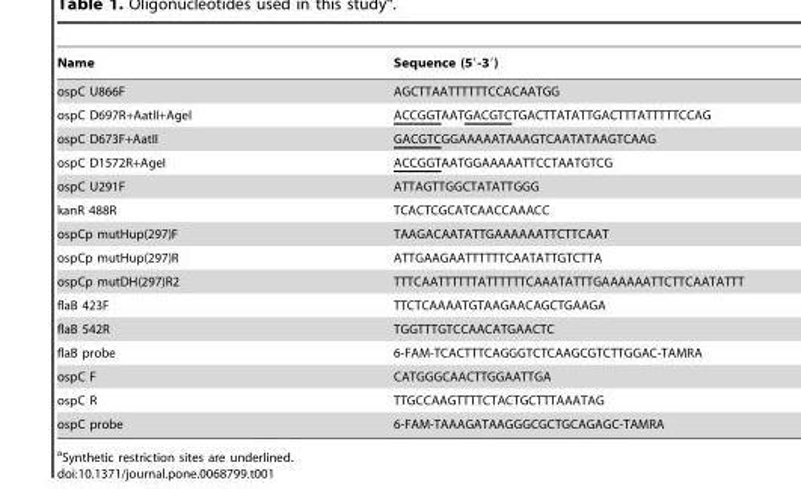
<table><thead><tr><td>Name</td><td>Sequence (5′-3′)</td></tr></thead><tbody><tr><td>ospC U866F</td><td>AGCTTAATTTTTTCCACAATGG</td></tr><tr><td>ospC D697R+AatII+AgeI</td><td>ACCGGTAATGACGTCTGACTTATATTGACTTTATTTTTCCAG</td></tr><tr><td>ospC D673F+AatII</td><td>GACGTCGGAAAAATAAAGTCAATATAAGTCAAG</td></tr><tr><td>ospC D1572R+AgeI</td><td>ACCGGTAATGGAAAAATTCCTAATGTCG</td></tr><tr><td>ospC U291F</td><td>ATTAGTTGGCTATATTGGG</td></tr><tr><td>kanR 488R</td><td>TCACTCGCATCAACCAAACC</td></tr><tr><td>ospCp mutHup(297)F</td><td>TAAGACAATATTGAAAAAATTCTTCAAT</td></tr><tr><td>ospCp mutHup(297)R</td><td>ATTGAAGAATTTTTTCAATATTGTCTTA</td></tr><tr><td>ospCp mutDH(297)R2</td><td>TTTCAATTTTTTATTTTTTCAAATATTTGAAAAAATTCTTCAATATTT</td></tr><tr><td>flaB 423F</td><td>TTCTCAAAATGTAAGAACAGCTGAAGA</td></tr><tr><td>flaB 542R</td><td>TGGTTTGTCCAACATGAACTC</td></tr><tr><td>flaB probe</td><td>6-FAM-TCACTTTCAGGGTCTCAAGCGTCTTGGAC-TAMRA</td></tr><tr><td>ospC F</td><td>CATGGGCAACTTGGAATTGA</td></tr><tr><td>ospC R</td><td>TTGCCAAGTTTTCTACTGCTTTAAATAG</td></tr><tr><td>ospC probe</td><td>6-FAM-TAAAGATAAGGGCGCTGCAGAGC-TAMRA</td></tr></tbody></table>